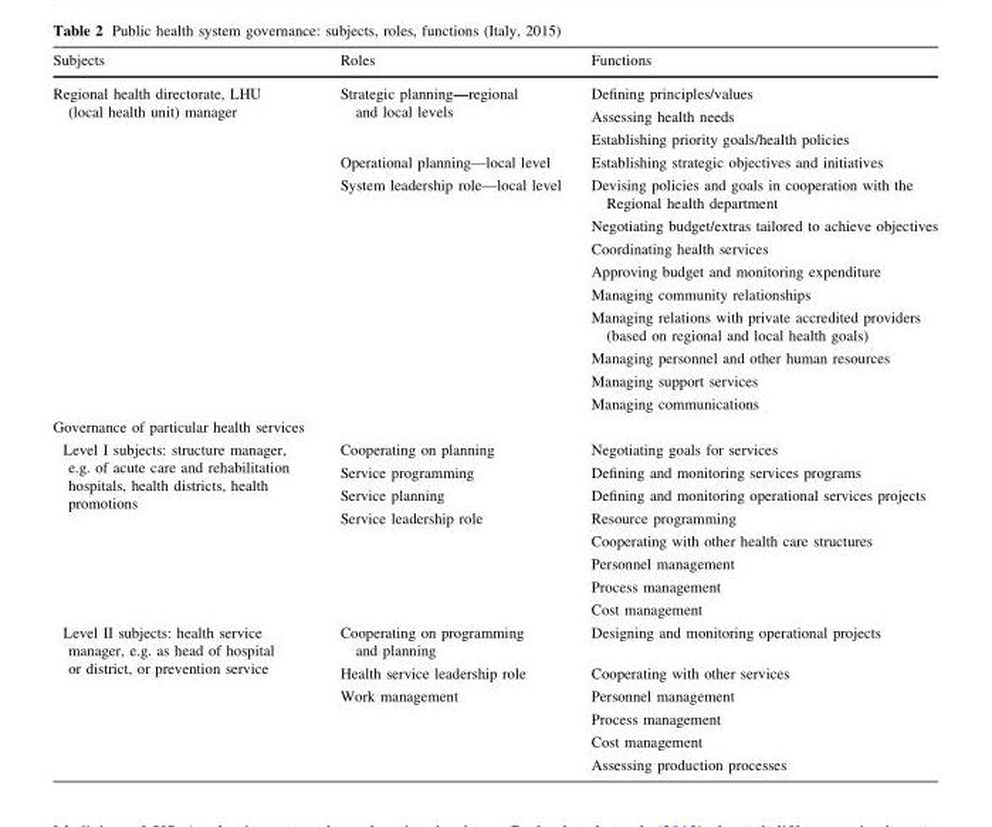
<table><thead><tr><td>Subjects</td><td>Roles</td><td>Functions</td></tr></thead><tbody><tr><td rowspan="3">Regional health directorate, LHU (local health unit) manager</td><td>Strategic planning—regional and local levels</td><td>Defining principles/values Assessing health needs Establishing priority goals/health policies</td></tr><tr><td>Operational planning—local level</td><td>Establishing strategic objectives and initiatives</td></tr><tr><td>System leadership role—local level</td><td>Devising policies and goals in cooperation with the Regional health department Negotiating budget/extras tailored to achieve objectives Coordinating health services Approving budget and monitoring expenditure Managing community relationships Managing relations with private accredited providers (based on regional and local health goals) Managing personnel and other human resources Managing support services Managing communications</td></tr><tr><td colspan="3">Governance of particular health services</td></tr><tr><td>Level I subjects: structure manager, e.g. of acute care and rehabilitation hospitals, health districts, health promotions</td><td>Cooperating on planning Service programming Service planning Service leadership role</td><td>Negotiating goals for services Defining and monitoring services programs Defining and monitoring operational services projects Resource programming Cooperating with other health care structures Personnel management Process management Cost management</td></tr><tr><td rowspan="3">Level II subjects: health service manager, e.g. as head of hospital or district, or prevention service</td><td>Cooperating on programming and planning</td><td>Designing and monitoring operational projects</td></tr><tr><td>Health service leadership role</td><td>Cooperating with other services</td></tr><tr><td>Work management</td><td>Personnel management Process management Cost management Assessing production processes</td></tr></tbody></table>